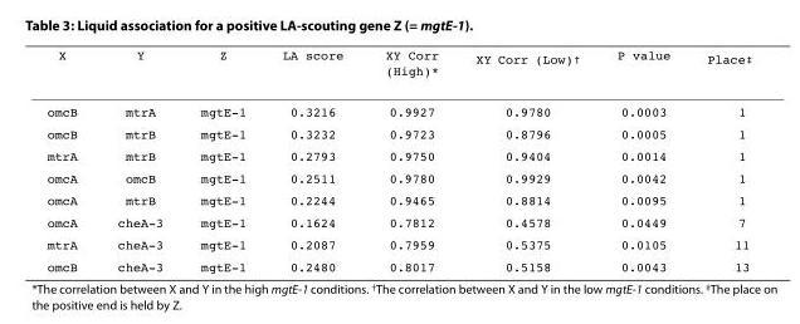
<table><thead><tr><td>X</td><td>Y</td><td>Z</td><td>LA score</td><td>XY Corr (High)*</td><td>XY Corr (Low)<sup>†</sup></td><td>P value</td><td>Place<sup>‡</sup></td></tr></thead><tbody><tr><td>omcB</td><td>mtrA</td><td>mgtE-1</td><td>0.3216</td><td>0.9927</td><td>0.9780</td><td>0.0003</td><td>1</td></tr><tr><td>omcB</td><td>mtrB</td><td>mgtE-1</td><td>0.3232</td><td>0.9723</td><td>0.8796</td><td>0.0005</td><td>1</td></tr><tr><td>mtrA</td><td>mtrB</td><td>mgtE-1</td><td>0.2793</td><td>0.9750</td><td>0.9404</td><td>0.0014</td><td>1</td></tr><tr><td>omcA</td><td>omcB</td><td>mgtE-1</td><td>0.2511</td><td>0.9780</td><td>0.9929</td><td>0.0042</td><td>1</td></tr><tr><td>omcA</td><td>mtrB</td><td>mgtE-1</td><td>0.2244</td><td>0.9465</td><td>0.8814</td><td>0.0095</td><td>1</td></tr><tr><td>omcA</td><td>cheA-3</td><td>mgtE-1</td><td>0.1624</td><td>0.7812</td><td>0.4578</td><td>0.0449</td><td>7</td></tr><tr><td>mtrA</td><td>cheA-3</td><td>mgtE-1</td><td>0.2087</td><td>0.7959</td><td>0.5375</td><td>0.0105</td><td>11</td></tr><tr><td>omcB</td><td>cheA-3</td><td>mgtE-1</td><td>0.2480</td><td>0.8017</td><td>0.5158</td><td>0.0043</td><td>13</td></tr></tbody></table>